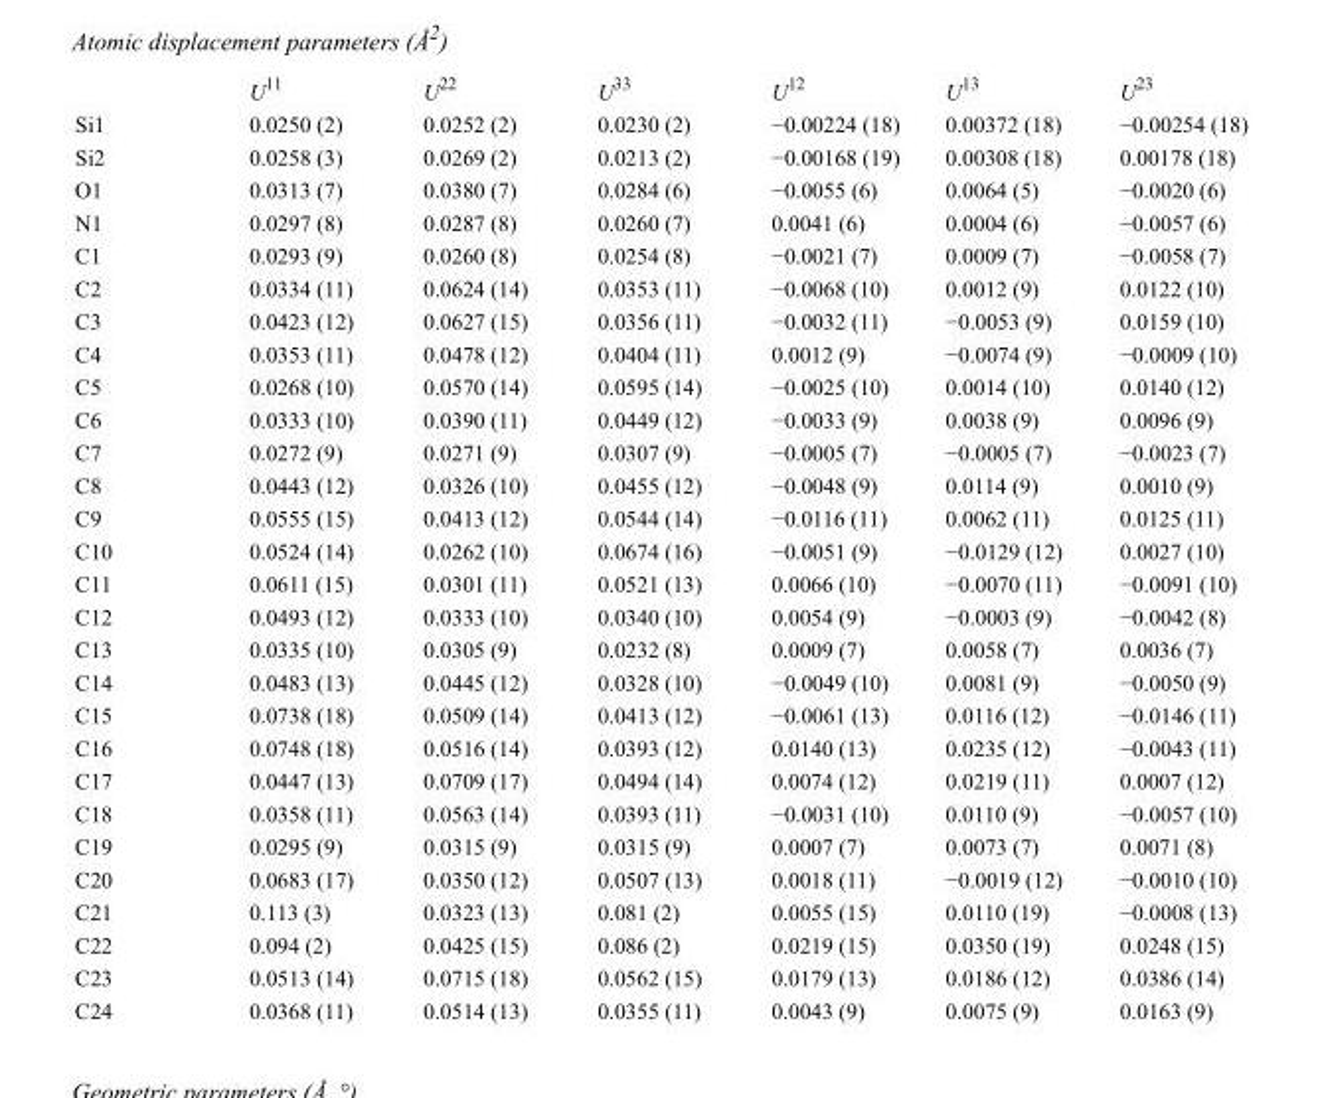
<table><thead><tr><td></td><td>U<sup>11</sup></td><td>U<sup>22</sup></td><td>U<sup>33</sup></td><td>U<sup>12</sup></td><td>U<sup>13</sup></td><td>U<sup>23</sup></td></tr></thead><tbody><tr><td>Si1</td><td>0.0250 (2)</td><td>0.0252 (2)</td><td>0.0230 (2)</td><td>−0.00224 (18)</td><td>0.00372 (18)</td><td>−0.00254 (18)</td></tr><tr><td>Si2</td><td>0.0258 (3)</td><td>0.0269 (2)</td><td>0.0213 (2)</td><td>−0.00168 (19)</td><td>0.00308 (18)</td><td>0.00178 (18)</td></tr><tr><td>O1</td><td>0.0313 (7)</td><td>0.0380 (7)</td><td>0.0284 (6)</td><td>−0.0055 (6)</td><td>0.0064 (5)</td><td>−0.0020 (6)</td></tr><tr><td>N1</td><td>0.0297 (8)</td><td>0.0287 (8)</td><td>0.0260 (7)</td><td>0.0041 (6)</td><td>0.0004 (6)</td><td>−0.0057 (6)</td></tr><tr><td>C1</td><td>0.0293 (9)</td><td>0.0260 (8)</td><td>0.0254 (8)</td><td>−0.0021 (7)</td><td>0.0009 (7)</td><td>−0.0058 (7)</td></tr><tr><td>C2</td><td>0.0334 (11)</td><td>0.0624 (14)</td><td>0.0353 (11)</td><td>−0.0068 (10)</td><td>0.0012 (9)</td><td>0.0122 (10)</td></tr><tr><td>C3</td><td>0.0423 (12)</td><td>0.0627 (15)</td><td>0.0356 (11)</td><td>−0.0032 (11)</td><td>−0.0053 (9)</td><td>0.0159 (10)</td></tr><tr><td>C4</td><td>0.0353 (11)</td><td>0.0478 (12)</td><td>0.0404 (11)</td><td>0.0012 (9)</td><td>−0.0074 (9)</td><td>−0.0009 (10)</td></tr><tr><td>C5</td><td>0.0268 (10)</td><td>0.0570 (14)</td><td>0.0595 (14)</td><td>−0.0025 (10)</td><td>0.0014 (10)</td><td>0.0140 (12)</td></tr><tr><td>C6</td><td>0.0333 (10)</td><td>0.0390 (11)</td><td>0.0449 (12)</td><td>−0.0033 (9)</td><td>0.0038 (9)</td><td>0.0096 (9)</td></tr><tr><td>C7</td><td>0.0272 (9)</td><td>0.0271 (9)</td><td>0.0307 (9)</td><td>−0.0005 (7)</td><td>−0.0005 (7)</td><td>−0.0023 (7)</td></tr><tr><td>C8</td><td>0.0443 (12)</td><td>0.0326 (10)</td><td>0.0455 (12)</td><td>−0.0048 (9)</td><td>0.0114 (9)</td><td>0.0010 (9)</td></tr><tr><td>C9</td><td>0.0555 (15)</td><td>0.0413 (12)</td><td>0.0544 (14)</td><td>−0.0116 (11)</td><td>0.0062 (11)</td><td>0.0125 (11)</td></tr><tr><td>C10</td><td>0.0524 (14)</td><td>0.0262 (10)</td><td>0.0674 (16)</td><td>−0.0051 (9)</td><td>−0.0129 (12)</td><td>0.0027 (10)</td></tr><tr><td>C11</td><td>0.0611 (15)</td><td>0.0301 (11)</td><td>0.0521 (13)</td><td>0.0066 (10)</td><td>−0.0070 (11)</td><td>−0.0091 (10)</td></tr><tr><td>C12</td><td>0.0493 (12)</td><td>0.0333 (10)</td><td>0.0340 (10)</td><td>0.0054 (9)</td><td>−0.0003 (9)</td><td>−0.0042 (8)</td></tr><tr><td>C13</td><td>0.0335 (10)</td><td>0.0305 (9)</td><td>0.0232 (8)</td><td>0.0009 (7)</td><td>0.0058 (7)</td><td>0.0036 (7)</td></tr><tr><td>C14</td><td>0.0483 (13)</td><td>0.0445 (12)</td><td>0.0328 (10)</td><td>−0.0049 (10)</td><td>0.0081 (9)</td><td>−0.0050 (9)</td></tr><tr><td>C15</td><td>0.0738 (18)</td><td>0.0509 (14)</td><td>0.0413 (12)</td><td>−0.0061 (13)</td><td>0.0116 (12)</td><td>−0.0146 (11)</td></tr><tr><td>C16</td><td>0.0748 (18)</td><td>0.0516 (14)</td><td>0.0393 (12)</td><td>0.0140 (13)</td><td>0.0235 (12)</td><td>−0.0043 (11)</td></tr><tr><td>C17</td><td>0.0447 (13)</td><td>0.0709 (17)</td><td>0.0494 (14)</td><td>0.0074 (12)</td><td>0.0219 (11)</td><td>0.0007 (12)</td></tr><tr><td>C18</td><td>0.0358 (11)</td><td>0.0563 (14)</td><td>0.0393 (11)</td><td>−0.0031 (10)</td><td>0.0110 (9)</td><td>−0.0057 (10)</td></tr><tr><td>C19</td><td>0.0295 (9)</td><td>0.0315 (9)</td><td>0.0315 (9)</td><td>0.0007 (7)</td><td>0.0073 (7)</td><td>0.0071 (8)</td></tr><tr><td>C20</td><td>0.0683 (17)</td><td>0.0350 (12)</td><td>0.0507 (13)</td><td>0.0018 (11)</td><td>−0.0019 (12)</td><td>−0.0010 (10)</td></tr><tr><td>C21</td><td>0.113 (3)</td><td>0.0323 (13)</td><td>0.081 (2)</td><td>0.0055 (15)</td><td>0.0110 (19)</td><td>−0.0008 (13)</td></tr><tr><td>C22</td><td>0.094 (2)</td><td>0.0425 (15)</td><td>0.086 (2)</td><td>0.0219 (15)</td><td>0.0350 (19)</td><td>0.0248 (15)</td></tr><tr><td>C23</td><td>0.0513 (14)</td><td>0.0715 (18)</td><td>0.0562 (15)</td><td>0.0179 (13)</td><td>0.0186 (12)</td><td>0.0386 (14)</td></tr><tr><td>C24</td><td>0.0368 (11)</td><td>0.0514 (13)</td><td>0.0355 (11)</td><td>0.0043 (9)</td><td>0.0075 (9)</td><td>0.0163 (9)</td></tr></tbody></table>